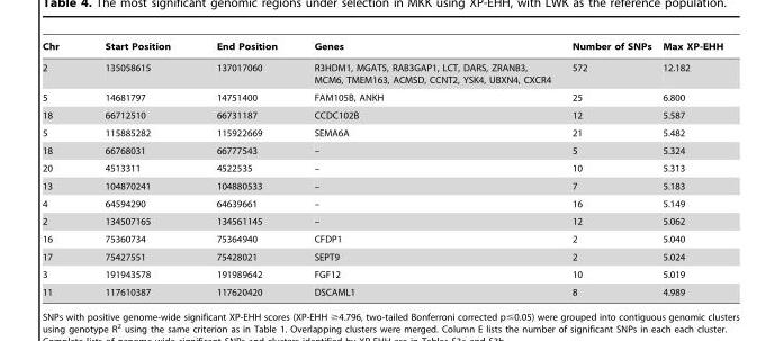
<table><thead><tr><td>Chr</td><td>Start Position</td><td>End Position</td><td>Genes</td><td>Number of SNPs</td><td>Max XP-EHH</td></tr></thead><tbody><tr><td>2</td><td>135058615</td><td>137017060</td><td>R3HDM1, MGAT5, RAB3GAP1, LCT, DARS, ZRANB3, MCM6, TMEM163, ACMSD, CCNT2, YSK4, UBXN4, CXCR4</td><td>572</td><td>12.182</td></tr><tr><td>5</td><td>14681797</td><td>14751400</td><td>FAM105B, ANKH</td><td>25</td><td>6.800</td></tr><tr><td>18</td><td>66712510</td><td>66731187</td><td>CCDC102B</td><td>12</td><td>5.587</td></tr><tr><td>5</td><td>115885282</td><td>115922669</td><td>SEMA6A</td><td>21</td><td>5.482</td></tr><tr><td>18</td><td>66768031</td><td>66777543</td><td>–</td><td>5</td><td>5.324</td></tr><tr><td>20</td><td>4513311</td><td>4522535</td><td>–</td><td>10</td><td>5.313</td></tr><tr><td>13</td><td>104870241</td><td>104880533</td><td>–</td><td>7</td><td>5.183</td></tr><tr><td>4</td><td>64594290</td><td>64639661</td><td>–</td><td>16</td><td>5.149</td></tr><tr><td>2</td><td>134507165</td><td>134561145</td><td>–</td><td>12</td><td>5.062</td></tr><tr><td>16</td><td>75360734</td><td>75364940</td><td>CFDP1</td><td>2</td><td>5.040</td></tr><tr><td>17</td><td>75427551</td><td>75428021</td><td>SEPT9</td><td>2</td><td>5.024</td></tr><tr><td>3</td><td>191943578</td><td>191989642</td><td>FGF12</td><td>10</td><td>5.019</td></tr><tr><td>11</td><td>117610387</td><td>117620420</td><td>DSCAML1</td><td>8</td><td>4.989</td></tr></tbody></table>